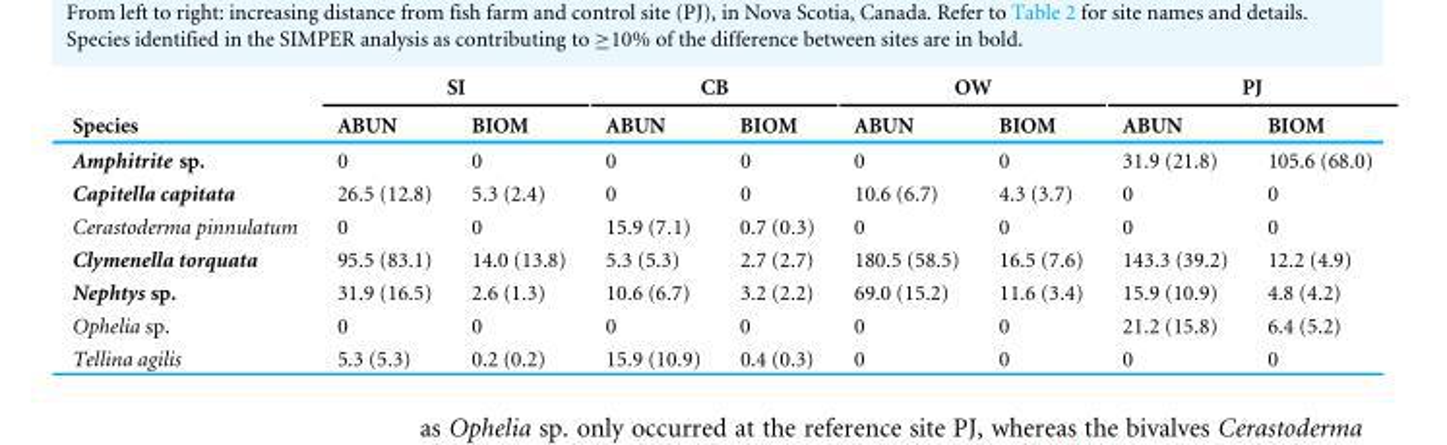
<table><thead><tr><td rowspan="2">Species</td><td colspan="2">SI</td><td colspan="2">CB</td><td colspan="2">OW</td><td colspan="2">PJ</td></tr><tr><td>ABUN</td><td>BIOM</td><td>ABUN</td><td>BIOM</td><td>ABUN</td><td>BIOM</td><td>ABUN</td><td>BIOM</td></tr></thead><tbody><tr><td>Amphitrite sp.</td><td>0</td><td>0</td><td>0</td><td>0</td><td>0</td><td>0</td><td>31.9 (21.8)</td><td>105.6 (68.0)</td></tr><tr><td>Capitella capitata</td><td>26.5 (12.8)</td><td>5.3 (2.4)</td><td>0</td><td>0</td><td>10.6 (6.7)</td><td>4.3 (3.7)</td><td>0</td><td>0</td></tr><tr><td>Cerastoderma pinnulatum</td><td>0</td><td>0</td><td>15.9 (7.1)</td><td>0.7 (0.3)</td><td>0</td><td>0</td><td>0</td><td>0</td></tr><tr><td>Clymenella torquata</td><td>95.5 (83.1)</td><td>14.0 (13.8)</td><td>5.3 (5.3)</td><td>2.7 (2.7)</td><td>180.5 (58.5)</td><td>16.5 (7.6)</td><td>143.3 (39.2)</td><td>12.2 (4.9)</td></tr><tr><td>Nephtys sp.</td><td>31.9 (16.5)</td><td>2.6 (1.3)</td><td>10.6 (6.7)</td><td>3.2 (2.2)</td><td>69.0 (15.2)</td><td>11.6 (3.4)</td><td>15.9 (10.9)</td><td>4.8 (4.2)</td></tr><tr><td>Ophelia sp.</td><td>0</td><td>0</td><td>0</td><td>0</td><td>0</td><td>0</td><td>21.2 (15.8)</td><td>6.4 (5.2)</td></tr><tr><td>Tellina agilis</td><td>5.3 (5.3)</td><td>0.2 (0.2)</td><td>15.9 (10.9)</td><td>0.4 (0.3)</td><td>0</td><td>0</td><td>0</td><td>0</td></tr></tbody></table>